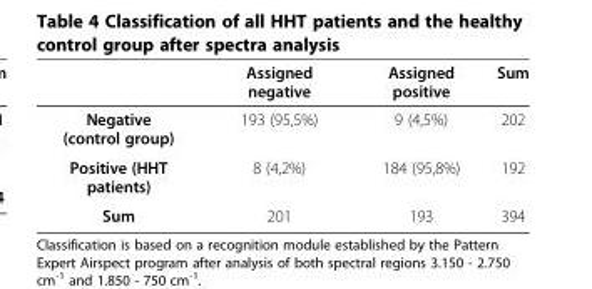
<table><thead><tr><td></td><td>Assigned negative</td><td>Assigned positive</td><td>Sum</td></tr></thead><tbody><tr><td>Negative (control group)</td><td>193 (95,5%)</td><td>9 (4,5%)</td><td>202</td></tr><tr><td>Positive (HHT patients)</td><td>8 (4,2%)</td><td>184 (95,8%)</td><td>192</td></tr><tr><td>Sum</td><td>201</td><td>193</td><td>394</td></tr></tbody></table>